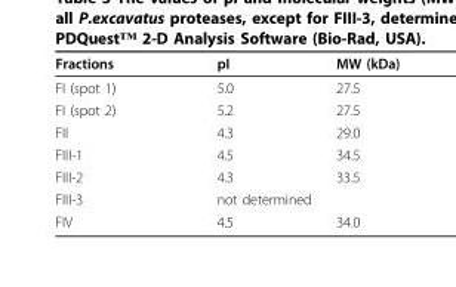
<table><thead><tr><td>Fractions</td><td>pI</td><td>MW (kDa)</td></tr></thead><tbody><tr><td>FI (spot 1)</td><td>5.0</td><td>27.5</td></tr><tr><td>FI (spot 2)</td><td>5.2</td><td>27.5</td></tr><tr><td>FII</td><td>4.3</td><td>29.0</td></tr><tr><td>FIII-1</td><td>4.5</td><td>34.5</td></tr><tr><td>FIII-2</td><td>4.3</td><td>33.5</td></tr><tr><td>FIII-3</td><td colspan="2">not determined</td></tr><tr><td>FIV</td><td>4.5</td><td>34.0</td></tr></tbody></table>